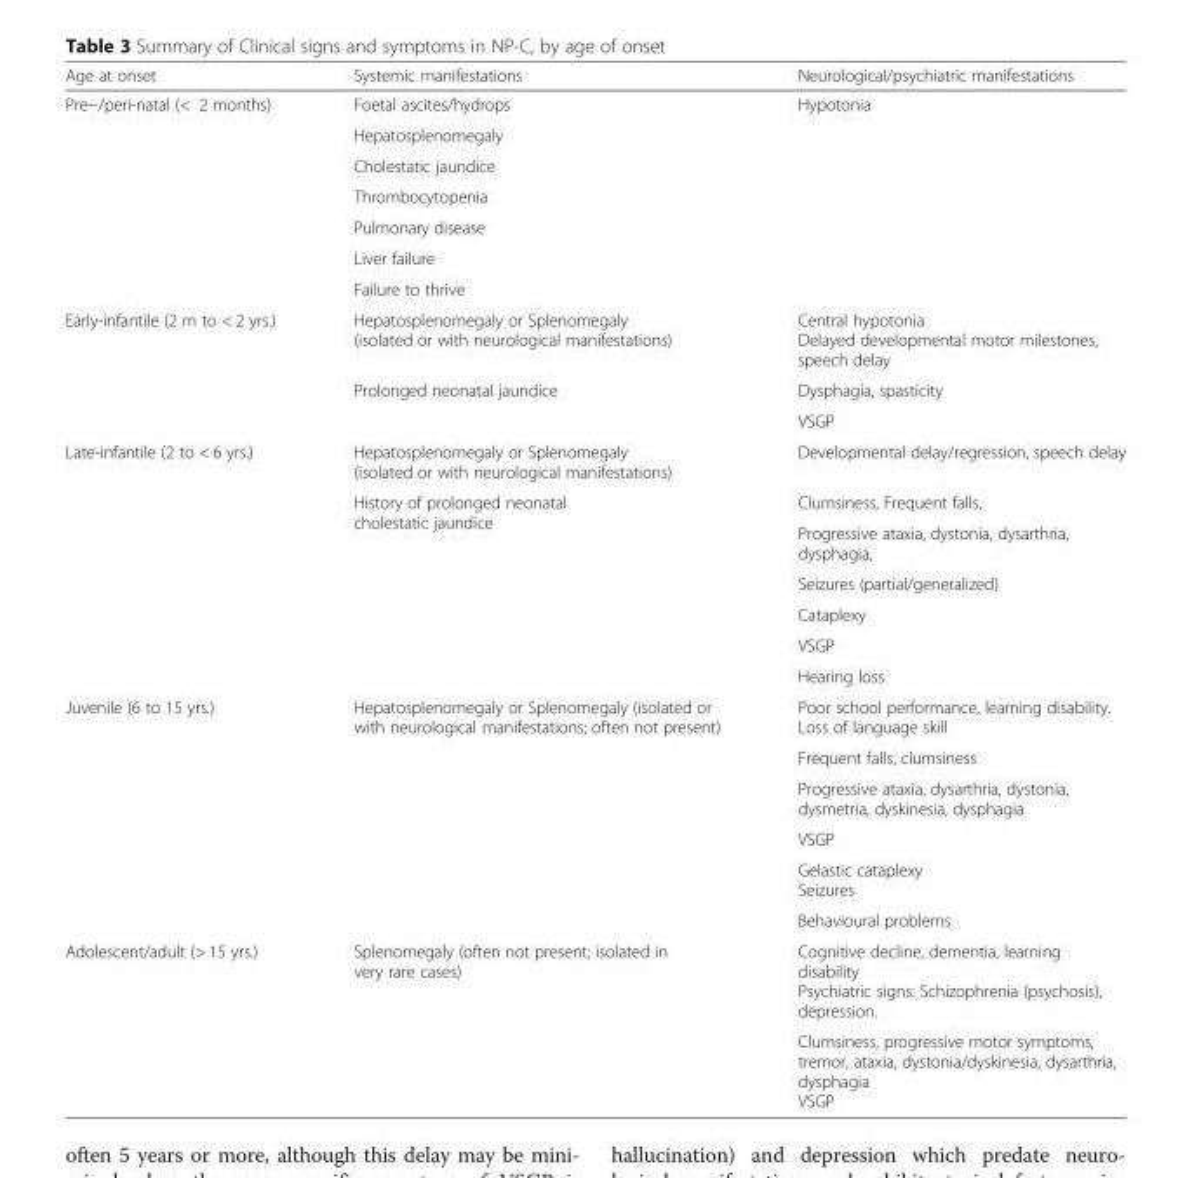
<table><thead><tr><td>Age at onset</td><td>Systemic manifestations</td><td>Neurological/psychiatric manifestations</td></tr></thead><tbody><tr><td rowspan="7">Pre−/peri-natal (&lt; 2 months)</td><td>Foetal ascites/hydrops</td><td rowspan="7">Hypotonia</td></tr><tr><td>Hepatosplenomegaly</td></tr><tr><td>Cholestatic jaundice</td></tr><tr><td>Thrombocytopenia</td></tr><tr><td>Pulmonary disease</td></tr><tr><td>Liver failure</td></tr><tr><td>Failure to thrive</td></tr><tr><td rowspan="3">Early-infantile (2 m to &lt; 2 yrs.)</td><td>Hepatosplenomegaly or Splenomegaly (isolated or with neurological manifestations)</td><td>Central hypotonia Delayed developmental motor milestones, speech delay</td></tr><tr><td rowspan="2">Prolonged neonatal jaundice</td><td>Dysphagia, spasticity</td></tr><tr><td>VSGP</td></tr><tr><td rowspan="7">Late-infantile (2 to &lt; 6 yrs.)</td><td>Hepatosplenomegaly or Splenomegaly (isolated or with neurological manifestations)</td><td>Developmental delay/regression, speech delay</td></tr><tr><td rowspan="6">History of prolonged neonatal cholestatic jaundice</td><td>Clumsiness, Frequent falls,</td></tr><tr><td>Progressive ataxia, dystonia, dysarthria, dysphagia,</td></tr><tr><td>Seizures (partial/generalized)</td></tr><tr><td>Cataplexy</td></tr><tr><td>VSGP</td></tr><tr><td>Hearing loss</td></tr><tr><td rowspan="6">Juvenile (6 to 15 yrs.)</td><td rowspan="6">Hepatosplenomegaly or Splenomegaly (isolated or with neurological manifestations; often not present)</td><td>Poor school performance, learning disability. Loss of language skill</td></tr><tr><td>Frequent falls, clumsiness</td></tr><tr><td>Progressive ataxia, dysarthria, dystonia, dysmetria, dyskinesia, dysphagia</td></tr><tr><td>VSGP</td></tr><tr><td>Gelastic cataplexy Seizures</td></tr><tr><td>Behavioural problems</td></tr><tr><td rowspan="2">Adolescent/adult (&gt; 15 yrs.)</td><td rowspan="2">Splenomegaly (often not present; isolated in very rare cases)</td><td>Cognitive decline, dementia, learning disability Psychiatric signs: Schizophrenia (psychosis), depression.</td></tr><tr><td>Clumsiness, progressive motor symptoms, tremor, ataxia, dystonia/dyskinesia, dysarthria, dysphagia VSGP</td></tr></tbody></table>